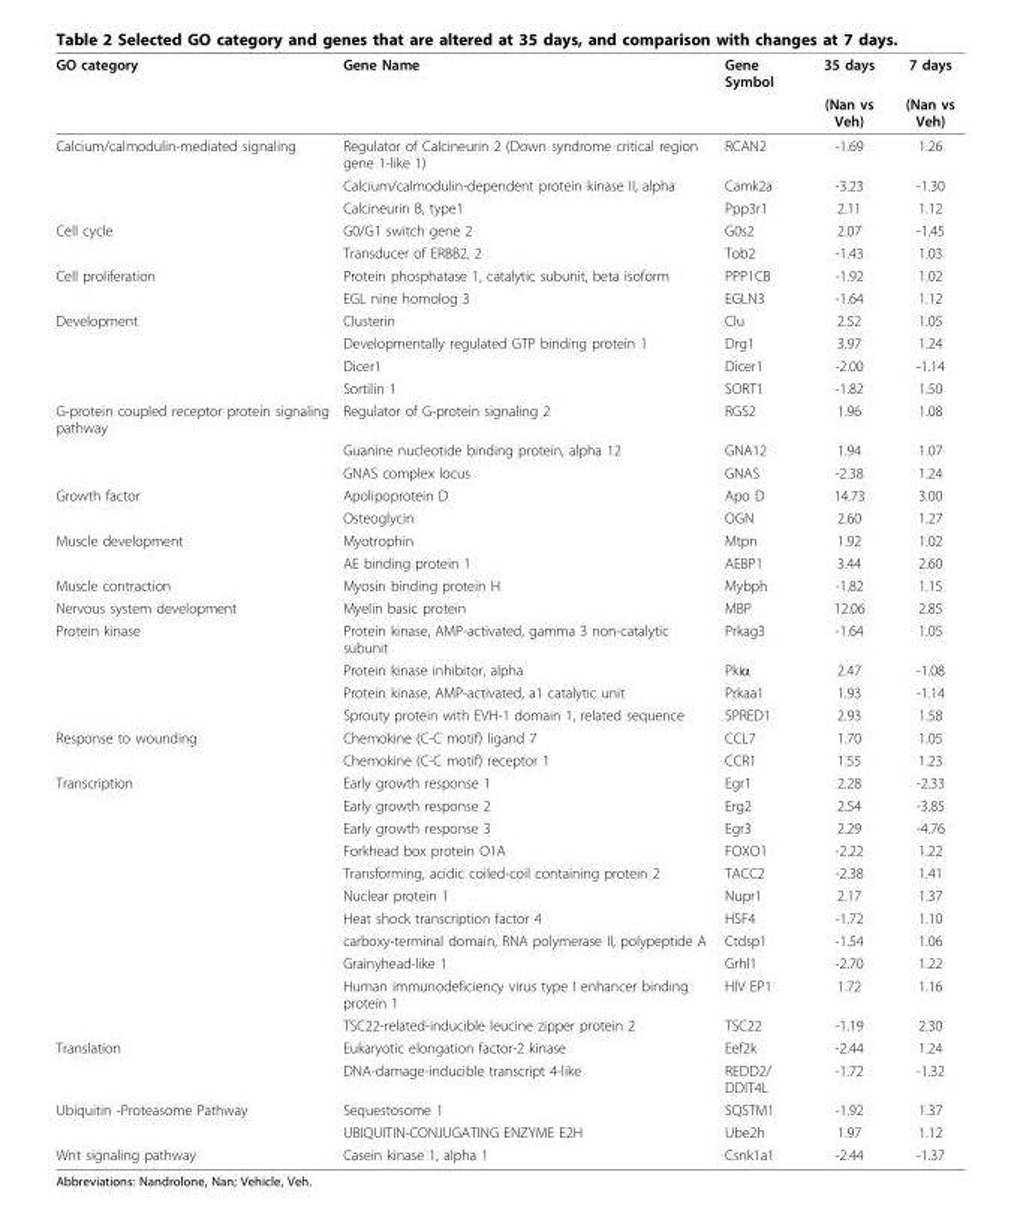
<table><thead><tr><td rowspan="2">GO category</td><td rowspan="2">Gene Name</td><td rowspan="2">Gene Symbol</td><td rowspan="2">35 days (Nan vs Veh)</td><td rowspan="2">7 days (Nan vs Veh)</td></tr><tr></tr></thead><tbody><tr><td rowspan="3">Calcium/calmodulin-mediated signaling</td><td>Regulator of Calcineurin 2 (Down syndrome critical region gene 1-like 1)</td><td>RCAN2</td><td>-1.69</td><td>1.26</td></tr><tr><td>Calcium/calmodulin-dependent protein kinase II, alpha</td><td>Camk2a</td><td>-3.23</td><td>-1.30</td></tr><tr><td>Calcineurin B, type1</td><td>Ppp3r1</td><td>2.11</td><td>1.12</td></tr><tr><td rowspan="2">Cell cycle</td><td>G0/G1 switch gene 2</td><td>G0s2</td><td>2.07</td><td>-1.45</td></tr><tr><td>Transducer of ERBB2, 2</td><td>Tob2</td><td>-1.43</td><td>1.03</td></tr><tr><td rowspan="2">Cell proliferation</td><td>Protein phosphatase 1, catalytic subunit, beta isoform</td><td>PPP1CB</td><td>-1.92</td><td>1.02</td></tr><tr><td>EGL nine homolog 3</td><td>EGLN3</td><td>-1.64</td><td>1.12</td></tr><tr><td rowspan="4">Development</td><td>Clusterin</td><td>Clu</td><td>2.52</td><td>1.05</td></tr><tr><td>Developmentally regulated GTP binding protein 1</td><td>Drg1</td><td>3.97</td><td>1.24</td></tr><tr><td>Dicer1</td><td>Dicer1</td><td>-2.00</td><td>-1.14</td></tr><tr><td>Sortilin 1</td><td>SORT1</td><td>-1.82</td><td>1.50</td></tr><tr><td rowspan="3">G-protein coupled receptor protein signaling pathway</td><td>Regulator of G-protein signaling 2</td><td>RGS2</td><td>1.96</td><td>1.08</td></tr><tr><td>Guanine nucleotide binding protein, alpha 12</td><td>GNA12</td><td>1.94</td><td>1.07</td></tr><tr><td>GNAS complex locus</td><td>GNAS</td><td>-2.38</td><td>1.24</td></tr><tr><td rowspan="2">Growth factor</td><td>Apolipoprotein D</td><td>Apo D</td><td>14.73</td><td>3.00</td></tr><tr><td>Osteoglycin</td><td>OGN</td><td>2.60</td><td>1.27</td></tr><tr><td rowspan="2">Muscle development</td><td>Myotrophin</td><td>Mtpn</td><td>1.92</td><td>1.02</td></tr><tr><td>AE binding protein 1</td><td>AEBP1</td><td>3.44</td><td>2.60</td></tr><tr><td>Muscle contraction</td><td>Myosin binding protein H</td><td>Mybph</td><td>-1.82</td><td>1.15</td></tr><tr><td>Nervous system development</td><td>Myelin basic protein</td><td>MBP</td><td>12.06</td><td>2.85</td></tr><tr><td rowspan="4">Protein kinase</td><td>Protein kinase, AMP-activated, gamma 3 non-catalytic subunit</td><td>Prkag3</td><td>-1.64</td><td>1.05</td></tr><tr><td>Protein kinase inhibitor, alpha</td><td>Pkiα</td><td>2.47</td><td>-1.08</td></tr><tr><td>Protein kinase, AMP-activated, a1 catalytic unit</td><td>Prkaa1</td><td>1.93</td><td>-1.14</td></tr><tr><td>Sprouty protein with EVH-1 domain 1, related sequence</td><td>SPRED1</td><td>2.93</td><td>1.58</td></tr><tr><td rowspan="2">Response to wounding</td><td>Chemokine (C-C motif) ligand 7</td><td>CCL7</td><td>1.70</td><td>1.05</td></tr><tr><td>Chemokine (C-C motif) receptor 1</td><td>CCR1</td><td>1.55</td><td>1.23</td></tr><tr><td rowspan="11">Transcription</td><td>Early growth response 1</td><td>Egr1</td><td>2.28</td><td>-2.33</td></tr><tr><td>Early growth response 2</td><td>Erg2</td><td>2.54</td><td>-3.85</td></tr><tr><td>Early growth response 3</td><td>Egr3</td><td>2.29</td><td>-4.76</td></tr><tr><td>Forkhead box protein O1A</td><td>FOXO1</td><td>-2.22</td><td>1.22</td></tr><tr><td>Transforming, acidic coiled-coil containing protein 2</td><td>TACC2</td><td>-2.38</td><td>1.41</td></tr><tr><td>Nuclear protein 1</td><td>Nupr1</td><td>2.17</td><td>1.37</td></tr><tr><td>Heat shock transcription factor 4</td><td>HSF4</td><td>-1.72</td><td>1.10</td></tr><tr><td>carboxy-terminal domain, RNA polymerase II, polypeptide A</td><td>Ctdsp1</td><td>-1.54</td><td>1.06</td></tr><tr><td>Grainyhead-like 1</td><td>Grhl1</td><td>-2.70</td><td>1.22</td></tr><tr><td>Human immunodeficiency virus type I enhancer binding protein 1</td><td>HIV EP1</td><td>1.72</td><td>1.16</td></tr><tr><td>TSC22-related-inducible leucine zipper protein 2</td><td>TSC22</td><td>-1.19</td><td>2.30</td></tr><tr><td rowspan="2">Translation</td><td>Eukaryotic elongation factor-2 kinase</td><td>Eef2k</td><td>-2.44</td><td>1.24</td></tr><tr><td>DNA-damage-inducible transcript 4-like</td><td>REDD2/ DDIT4L</td><td>-1.72</td><td>-1.32</td></tr><tr><td rowspan="2">Ubiquitin -Proteasome Pathway</td><td>Sequestosome 1</td><td>SQSTM1</td><td>-1.92</td><td>1.37</td></tr><tr><td>UBIQUITIN-CONJUGATING ENZYME E2H</td><td>Ube2h</td><td>1.97</td><td>1.12</td></tr><tr><td>Wnt signaling pathway</td><td>Casein kinase 1, alpha 1</td><td>Csnk1a1</td><td>-2.44</td><td>-1.37</td></tr></tbody></table>